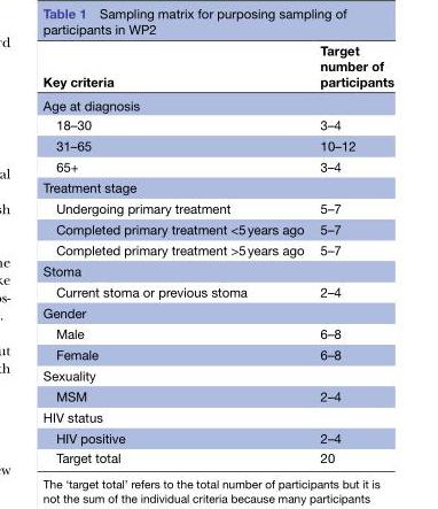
<table><thead><tr><td>Key criteria</td><td>Target number of participants</td></tr></thead><tbody><tr><td colspan="2">Age at diagnosis</td></tr><tr><td>18–30</td><td>3–4</td></tr><tr><td>31–65</td><td>10–12</td></tr><tr><td>65+</td><td>3–4</td></tr><tr><td colspan="2">Treatment stage</td></tr><tr><td>Undergoing primary treatment</td><td>5–7</td></tr><tr><td>Completed primary treatment &lt;5 years ago</td><td>5–7</td></tr><tr><td>Completed primary treatment &gt;5 years ago</td><td>5–7</td></tr><tr><td colspan="2">Stoma</td></tr><tr><td>Current stoma or previous stoma</td><td>2–4</td></tr><tr><td colspan="2">Gender</td></tr><tr><td>Male</td><td>6–8</td></tr><tr><td>Female</td><td>6–8</td></tr><tr><td colspan="2">Sexuality</td></tr><tr><td>MSM</td><td>2–4</td></tr><tr><td colspan="2">HIV status</td></tr><tr><td>HIV positive</td><td>2–4</td></tr><tr><td>Target total</td><td>20</td></tr></tbody></table>